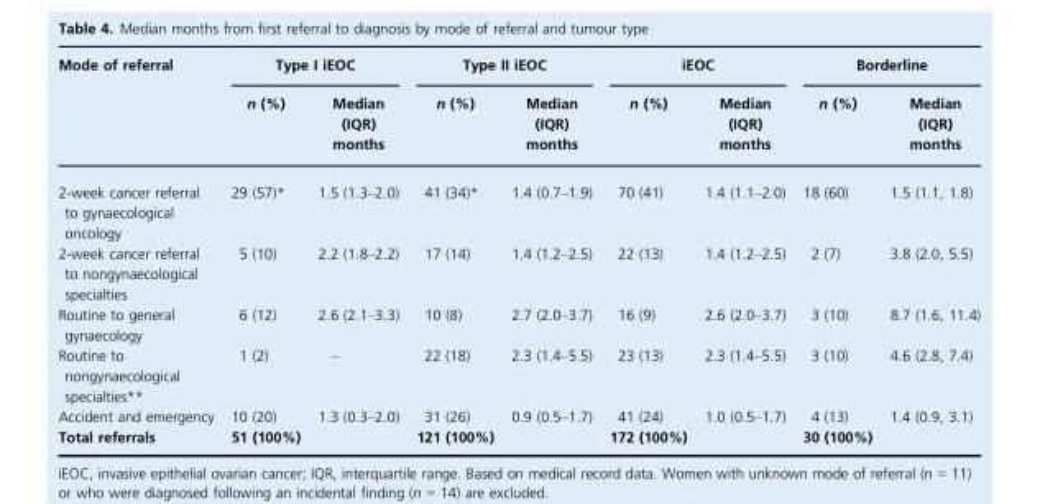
<table><thead><tr><td rowspan="2">Mode of referral</td><td colspan="2">Type I iEOC</td><td colspan="2">Type II iEOC</td><td colspan="2">iEOC</td><td colspan="2">Borderline</td></tr><tr><td>n (%)</td><td>Median (IQR) months</td><td>n (%)</td><td>Median (IQR) months</td><td>n (%)</td><td>Median (IQR) months</td><td>n (%)</td><td>Median (IQR) months</td></tr></thead><tbody><tr><td>2-week cancer referral to gynaecological oncology</td><td>29 (57)*</td><td>1.5 (1.3–2.0)</td><td>41 (34)*</td><td>1.4 (0.7–1.9)</td><td>70 (41)</td><td>1.4 (1.1–2.0)</td><td>18 (60)</td><td>1.5 (1.1, 1.8)</td></tr><tr><td>2-week cancer referral to nongynaecological specialties</td><td>5 (10)</td><td>2.2 (1.8–2.2)</td><td>17 (14)</td><td>1.4 (1.2–2.5)</td><td>22 (13)</td><td>1.4 (1.2–2.5)</td><td>2 (7)</td><td>3.8 (2.0, 5.5)</td></tr><tr><td>Routine to general gynaecology</td><td>6 (12)</td><td>2.6 (2.1–3.3)</td><td>10 (8)</td><td>2.7 (2.0–3.7)</td><td>16 (9)</td><td>2.6 (2.0–3.7)</td><td>3 (10)</td><td>8.7 (1.6, 11.4)</td></tr><tr><td>Routine to nongynaecological specialties**</td><td>1 (2)</td><td>–</td><td>22 (18)</td><td>2.3 (1.4–5.5)</td><td>23 (13)</td><td>2.3 (1.4–5.5)</td><td>3 (10)</td><td>4.6 (2.8, 7.4)</td></tr><tr><td>Accident and emergency</td><td>10 (20)</td><td>1.3 (0.3–2.0)</td><td>31 (26)</td><td>0.9 (0.5–1.7)</td><td>41 (24)</td><td>1.0 (0.5–1.7)</td><td>4 (13)</td><td>1.4 (0.9, 3.1)</td></tr><tr><td>Total referrals</td><td>51 (100%)</td><td></td><td>121 (100%)</td><td></td><td>172 (100%)</td><td></td><td>30 (100%)</td><td></td></tr></tbody></table>